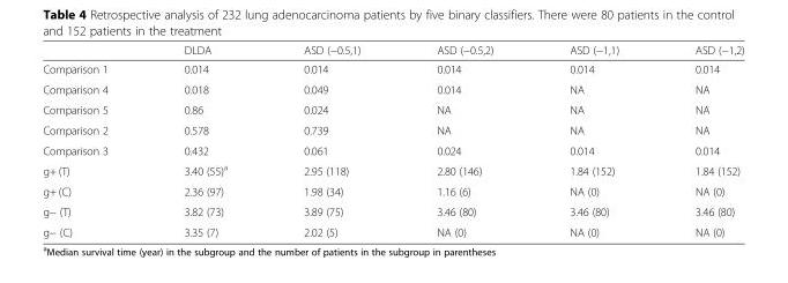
<table><thead><tr><td></td><td>DLDA</td><td>ASD (−0.5,1)</td><td>ASD (−0.5,2)</td><td>ASD (−1,1)</td><td>ASD (−1,2)</td></tr></thead><tbody><tr><td>Comparison 1</td><td>0.014</td><td>0.014</td><td>0.014</td><td>0.014</td><td>0.014</td></tr><tr><td>Comparison 4</td><td>0.018</td><td>0.049</td><td>0.014</td><td>NA</td><td>NA</td></tr><tr><td>Comparison 5</td><td>0.86</td><td>0.024</td><td>NA</td><td>NA</td><td>NA</td></tr><tr><td>Comparison 2</td><td>0.578</td><td>0.739</td><td>NA</td><td>NA</td><td>NA</td></tr><tr><td>Comparison 3</td><td>0.432</td><td>0.061</td><td>0.024</td><td>0.014</td><td>0.014</td></tr><tr><td>g+ (T)</td><td>3.40 (55)<sup>a</sup></td><td>2.95 (118)</td><td>2.80 (146)</td><td>1.84 (152)</td><td>1.84 (152)</td></tr><tr><td>g+ (C)</td><td>2.36 (97)</td><td>1.98 (34)</td><td>1.16 (6)</td><td>NA (0)</td><td>NA (0)</td></tr><tr><td>g− (T)</td><td>3.82 (73)</td><td>3.89 (75)</td><td>3.46 (80)</td><td>3.46 (80)</td><td>3.46 (80)</td></tr><tr><td>g− (C)</td><td>3.35 (7)</td><td>2.02 (5)</td><td>NA (0)</td><td>NA (0)</td><td>NA (0)</td></tr></tbody></table>